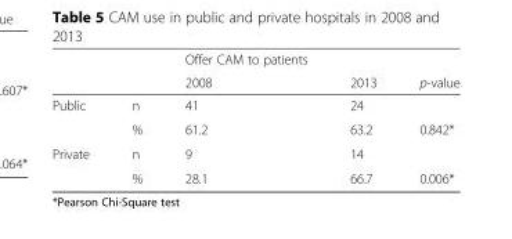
<table><thead><tr><td rowspan="2"></td><td rowspan="2"></td><td rowspan="2">Offer CAM to patients 2008</td><td rowspan="2">2013</td><td rowspan="2">p-value</td></tr><tr></tr></thead><tbody><tr><td rowspan="2">Public</td><td>n</td><td>41</td><td>24</td><td></td></tr><tr><td>%</td><td>61.2</td><td>63.2</td><td>0.842*</td></tr><tr><td rowspan="2">Private</td><td>n</td><td>9</td><td>14</td><td></td></tr><tr><td>%</td><td>28.1</td><td>66.7</td><td>0.006*</td></tr></tbody></table>